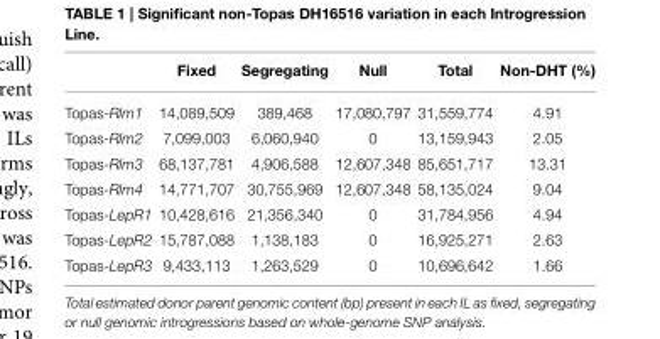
<table><thead><tr><td></td><td>Fixed</td><td>Segregating</td><td>Null</td><td>Total</td><td>Non-DHT (%)</td></tr></thead><tbody><tr><td>Topas-Rlm1</td><td>14,089,509</td><td>389,468</td><td>17,080,797</td><td>31,559,774</td><td>4.91</td></tr><tr><td>Topas-Rlm2</td><td>7,099,003</td><td>6,060,940</td><td>0</td><td>13,159,943</td><td>2.05</td></tr><tr><td>Topas-Rlm3</td><td>68,137,781</td><td>4,906,588</td><td>12,607,348</td><td>85,651,717</td><td>13.31</td></tr><tr><td>Topas-Rlm4</td><td>14,771,707</td><td>30,755,969</td><td>12,607,348</td><td>58,135,024</td><td>9.04</td></tr><tr><td>Topas-LepR1</td><td>10,428,616</td><td>21,356,340</td><td>0</td><td>31,784,956</td><td>4.94</td></tr><tr><td>Topas-LepR2</td><td>15,787,088</td><td>1,138,183</td><td>0</td><td>16,925,271</td><td>2.63</td></tr><tr><td>Topas-LepR3</td><td>9,433,113</td><td>1,263,529</td><td>0</td><td>10,696,642</td><td>1.66</td></tr></tbody></table>